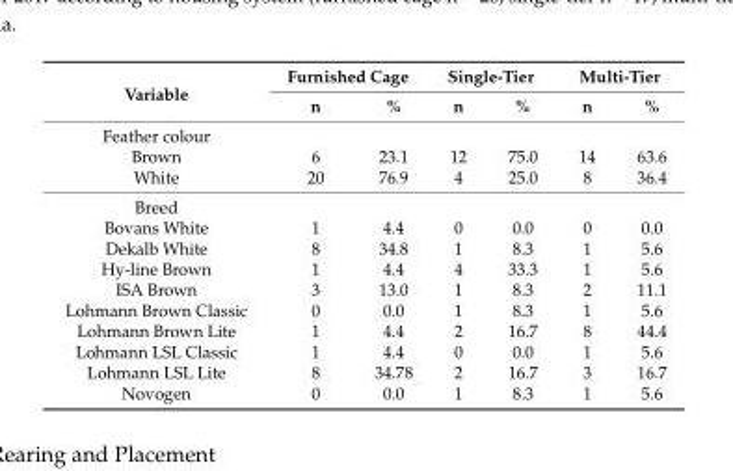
<table><thead><tr><td rowspan="2">Variable</td><td colspan="2">Furnished Cage</td><td colspan="2">Single-Tier</td><td colspan="2">Multi-Tier</td></tr><tr><td>n</td><td>%</td><td>n</td><td>%</td><td>n</td><td>%</td></tr></thead><tbody><tr><td colspan="7">Feather colour</td></tr><tr><td>Brown</td><td>6</td><td>23.1</td><td>12</td><td>75.0</td><td>14</td><td>63.6</td></tr><tr><td>White</td><td>20</td><td>76.9</td><td>4</td><td>25.0</td><td>8</td><td>36.4</td></tr><tr><td colspan="7">Breed</td></tr><tr><td>Bovans White</td><td>1</td><td>4.4</td><td>0</td><td>0.0</td><td>0</td><td>0.0</td></tr><tr><td>Dekalb White</td><td>8</td><td>34.8</td><td>1</td><td>8.3</td><td>1</td><td>5.6</td></tr><tr><td>Hy-line Brown</td><td>1</td><td>4.4</td><td>4</td><td>33.3</td><td>1</td><td>5.6</td></tr><tr><td>ISA Brown</td><td>3</td><td>13.0</td><td>1</td><td>8.3</td><td>2</td><td>11.1</td></tr><tr><td>Lohmann Brown Classic</td><td>0</td><td>0.0</td><td>1</td><td>8.3</td><td>1</td><td>5.6</td></tr><tr><td>Lohmann Brown Lite</td><td>1</td><td>4.4</td><td>2</td><td>16.7</td><td>8</td><td>44.4</td></tr><tr><td>Lohmann LSL Classic</td><td>1</td><td>4.4</td><td>0</td><td>0.0</td><td>1</td><td>5.6</td></tr><tr><td>Lohmann LSL Lite</td><td>8</td><td>34.78</td><td>2</td><td>16.7</td><td>3</td><td>16.7</td></tr><tr><td>Novogen</td><td>0</td><td>0.0</td><td>1</td><td>8.3</td><td>1</td><td>5.6</td></tr></tbody></table>